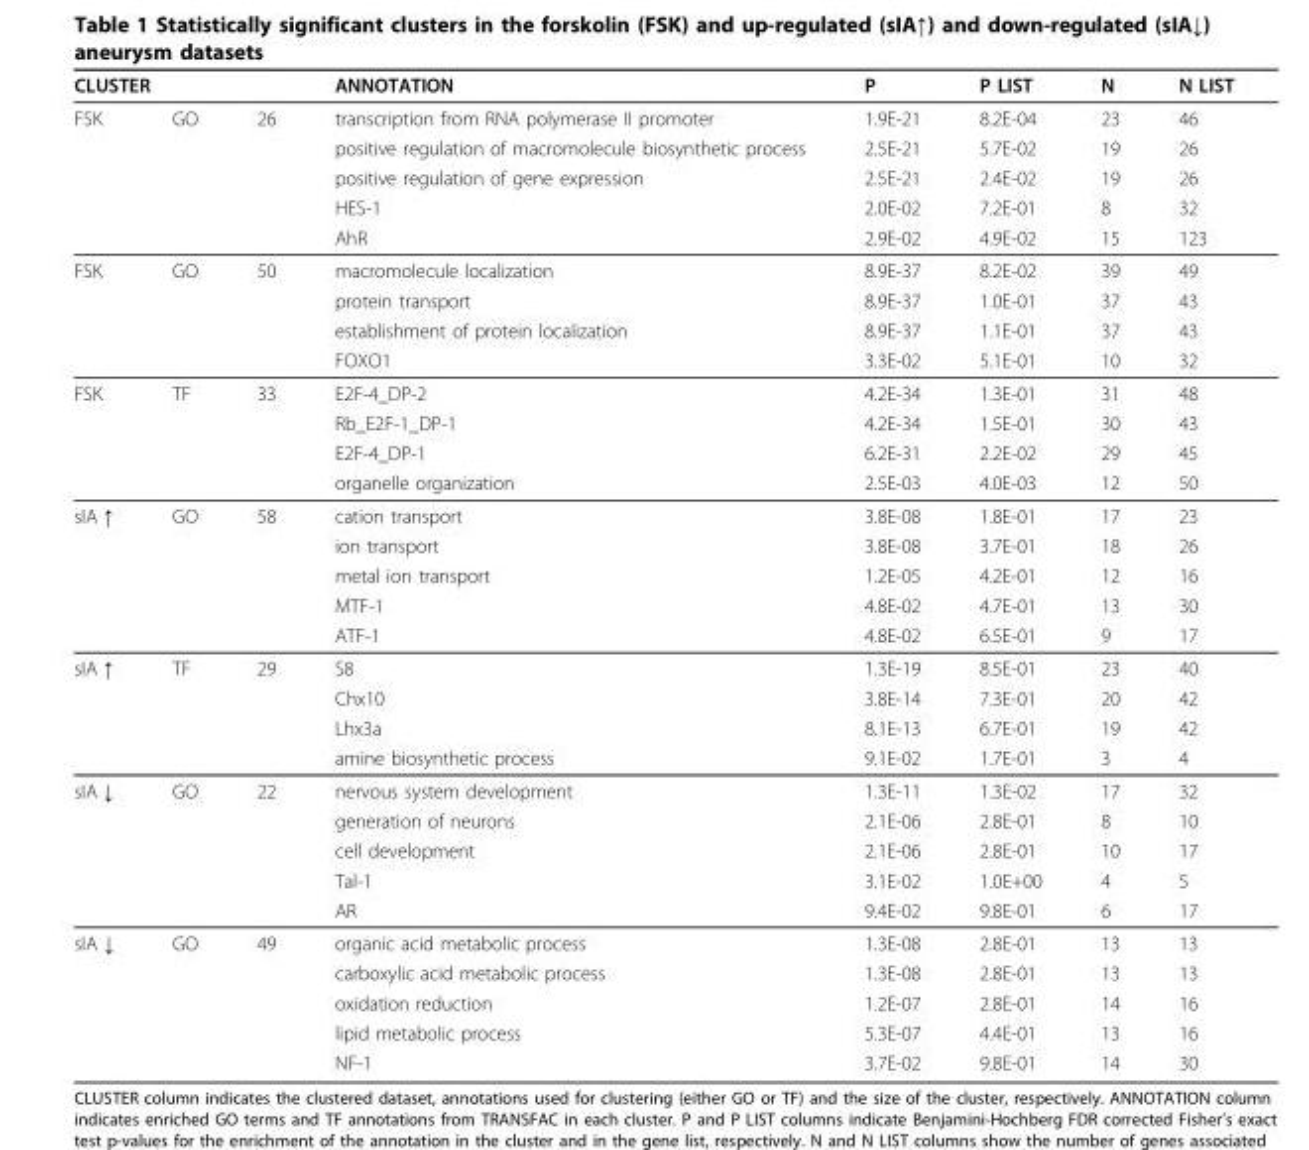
<table><thead><tr><td colspan="3">CLUSTER</td><td rowspan="2">ANNOTATION transcription from RNA polymerase II promoter</td><td rowspan="2">P 1.9E-21</td><td rowspan="2">P LIST 8.2E-04</td><td rowspan="2">N 23</td><td rowspan="2">N LIST 46</td></tr><tr><td>FSK</td><td>GO</td><td>26</td></tr></thead><tbody><tr><td></td><td></td><td></td><td>positive regulation of macromolecule biosynthetic process</td><td>2.5E-21</td><td>5.7E-02</td><td>19</td><td>26</td></tr><tr><td></td><td></td><td></td><td>positive regulation of gene expression</td><td>2.5E-21</td><td>2.4E-02</td><td>19</td><td>26</td></tr><tr><td></td><td></td><td></td><td>HES-1</td><td>2.0E-02</td><td>7.2E-01</td><td>8</td><td>32</td></tr><tr><td></td><td></td><td></td><td>AhR</td><td>2.9E-02</td><td>4.9E-02</td><td>15</td><td>123</td></tr><tr><td rowspan="4">FSK</td><td>GO</td><td>50</td><td>macromolecule localization</td><td>8.9E-37</td><td>8.2E-02</td><td>39</td><td>49</td></tr><tr><td></td><td></td><td>protein transport</td><td>8.9E-37</td><td>1.0E-01</td><td>37</td><td>43</td></tr><tr><td></td><td></td><td>establishment of protein localization</td><td>8.9E-37</td><td>1.1E-01</td><td>37</td><td>43</td></tr><tr><td></td><td></td><td>FOXO1</td><td>3.3E-02</td><td>5.1E-01</td><td>10</td><td>32</td></tr><tr><td rowspan="4">FSK</td><td>TF</td><td>33</td><td>E2F-4_DP-2</td><td>4.2E-34</td><td>1.3E-01</td><td>31</td><td>48</td></tr><tr><td></td><td></td><td>Rb_E2F-1_DP-1</td><td>4.2E-34</td><td>1.5E-01</td><td>30</td><td>43</td></tr><tr><td></td><td></td><td>E2F-4_DP-1</td><td>6.2E-31</td><td>2.2E-02</td><td>29</td><td>45</td></tr><tr><td></td><td></td><td>organelle organization</td><td>2.5E-03</td><td>4.0E-03</td><td>12</td><td>50</td></tr><tr><td rowspan="5">sIA ↑</td><td>GO</td><td>58</td><td>cation transport</td><td>3.8E-08</td><td>1.8E-01</td><td>17</td><td>23</td></tr><tr><td></td><td></td><td>ion transport</td><td>3.8E-08</td><td>3.7E-01</td><td>18</td><td>26</td></tr><tr><td></td><td></td><td>metal ion transport</td><td>1.2E-05</td><td>4.2E-01</td><td>12</td><td>16</td></tr><tr><td></td><td></td><td>MTF-1</td><td>4.8E-02</td><td>4.7E-01</td><td>13</td><td>30</td></tr><tr><td></td><td></td><td>ATF-1</td><td>4.8E-02</td><td>6.5E-01</td><td>9</td><td>17</td></tr><tr><td rowspan="4">sIA ↑</td><td>TF</td><td>29</td><td>S8</td><td>1.3E-19</td><td>8.5E-01</td><td>23</td><td>40</td></tr><tr><td></td><td></td><td>Chx10</td><td>3.8E-14</td><td>7.3E-01</td><td>20</td><td>42</td></tr><tr><td></td><td></td><td>Lhx3a</td><td>8.1E-13</td><td>6.7E-01</td><td>19</td><td>42</td></tr><tr><td></td><td></td><td>amine biosynthetic process</td><td>9.1E-02</td><td>1.7E-01</td><td>3</td><td>4</td></tr><tr><td rowspan="5">sIA ↓</td><td>GO</td><td>22</td><td>nervous system development</td><td>1.3E-11</td><td>1.3E-02</td><td>17</td><td>32</td></tr><tr><td></td><td></td><td>generation of neurons</td><td>2.1E-06</td><td>2.8E-01</td><td>8</td><td>10</td></tr><tr><td></td><td></td><td>cell development</td><td>2.1E-06</td><td>2.8E-01</td><td>10</td><td>17</td></tr><tr><td></td><td></td><td>Tal-1</td><td>3.1E-02</td><td>1.0E+00</td><td>4</td><td>5</td></tr><tr><td></td><td></td><td>AR</td><td>9.4E-02</td><td>9.8E-01</td><td>6</td><td>17</td></tr><tr><td rowspan="5">sIA ↓</td><td>GO</td><td>49</td><td>organic acid metabolic process</td><td>1.3E-08</td><td>2.8E-01</td><td>13</td><td>13</td></tr><tr><td></td><td></td><td>carboxylic acid metabolic process</td><td>1.3E-08</td><td>2.8E-01</td><td>13</td><td>13</td></tr><tr><td></td><td></td><td>oxidation reduction</td><td>1.2E-07</td><td>2.8E-01</td><td>14</td><td>16</td></tr><tr><td></td><td></td><td>lipid metabolic process</td><td>5.3E-07</td><td>4.4E-01</td><td>13</td><td>16</td></tr><tr><td></td><td></td><td>NF-1</td><td>3.7E-02</td><td>9.8E-01</td><td>14</td><td>30</td></tr></tbody></table>